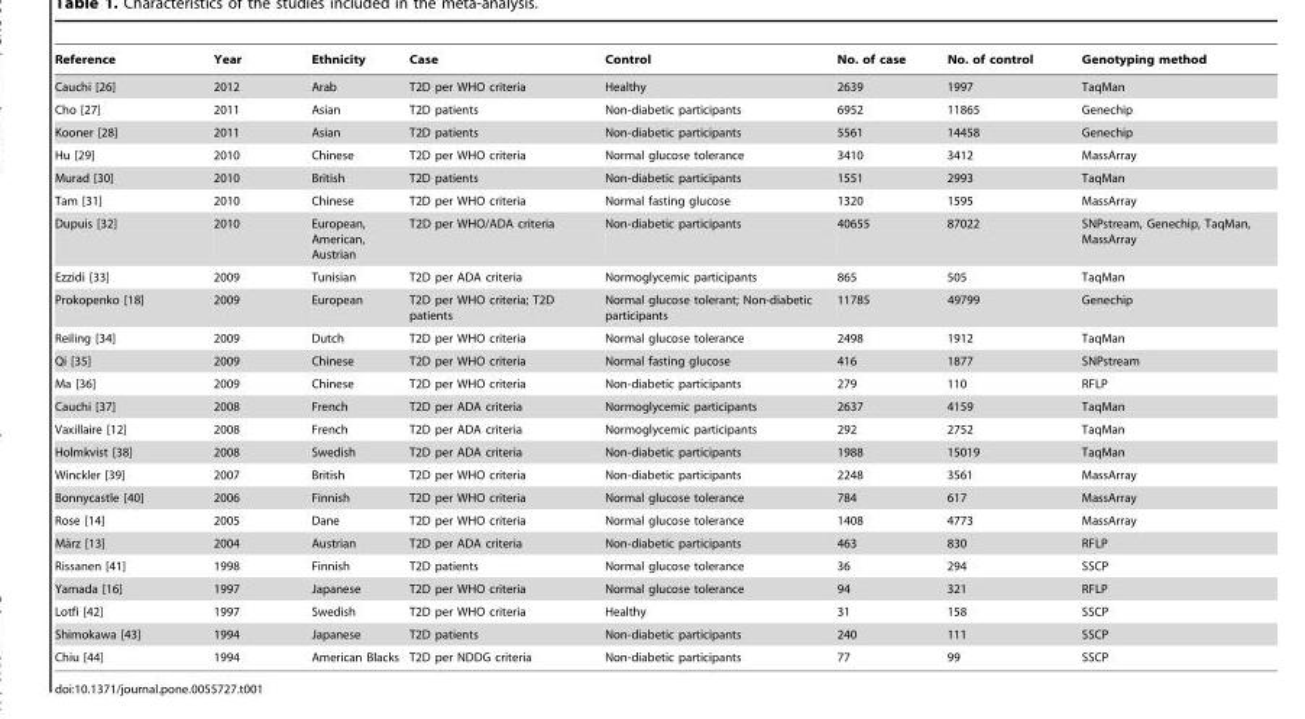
<table><thead><tr><td>Reference</td><td>Year</td><td>Ethnicity</td><td>Case</td><td>Control</td><td>No. of case</td><td>No. of control</td><td>Genotyping method</td></tr></thead><tbody><tr><td>Cauchi [26]</td><td>2012</td><td>Arab</td><td>T2D per WHO criteria</td><td>Healthy</td><td>2639</td><td>1997</td><td>TaqMan</td></tr><tr><td>Cho [27]</td><td>2011</td><td>Asian</td><td>T2D patients</td><td>Non-diabetic participants</td><td>6952</td><td>11865</td><td>Genechip</td></tr><tr><td>Kooner [28]</td><td>2011</td><td>Asian</td><td>T2D patients</td><td>Non-diabetic participants</td><td>5561</td><td>14458</td><td>Genechip</td></tr><tr><td>Hu [29]</td><td>2010</td><td>Chinese</td><td>T2D per WHO criteria</td><td>Normal glucose tolerance</td><td>3410</td><td>3412</td><td>MassArray</td></tr><tr><td>Murad [30]</td><td>2010</td><td>British</td><td>T2D patients</td><td>Non-diabetic participants</td><td>1551</td><td>2993</td><td>TaqMan</td></tr><tr><td>Tam [31]</td><td>2010</td><td>Chinese</td><td>T2D per WHO criteria</td><td>Normal fasting glucose</td><td>1320</td><td>1595</td><td>MassArray</td></tr><tr><td>Dupuis [32]</td><td>2010</td><td>European, American, Austrian</td><td>T2D per WHO/ADA criteria</td><td>Non-diabetic participants</td><td>40655</td><td>87022</td><td>SNPstream, Genechip, TaqMan, MassArray</td></tr><tr><td>Ezzidi [33]</td><td>2009</td><td>Tunisian</td><td>T2D per ADA criteria</td><td>Normoglycemic participants</td><td>865</td><td>505</td><td>TaqMan</td></tr><tr><td>Prokopenko [18]</td><td>2009</td><td>European</td><td>T2D per WHO criteria; T2D patients</td><td>Normal glucose tolerant; Non-diabetic participants</td><td>11785</td><td>49799</td><td>Genechip</td></tr><tr><td>Reiling [34]</td><td>2009</td><td>Dutch</td><td>T2D per WHO criteria</td><td>Normal glucose tolerance</td><td>2498</td><td>1912</td><td>TaqMan</td></tr><tr><td>Qi [35]</td><td>2009</td><td>Chinese</td><td>T2D per WHO criteria</td><td>Normal fasting glucose</td><td>416</td><td>1877</td><td>SNPstream</td></tr><tr><td>Ma [36]</td><td>2009</td><td>Chinese</td><td>T2D per WHO criteria</td><td>Non-diabetic participants</td><td>279</td><td>110</td><td>RFLP</td></tr><tr><td>Cauchi [37]</td><td>2008</td><td>French</td><td>T2D per ADA criteria</td><td>Normoglycemic participants</td><td>2637</td><td>4159</td><td>TaqMan</td></tr><tr><td>Vaxillaire [12]</td><td>2008</td><td>French</td><td>T2D per ADA criteria</td><td>Normoglycemic participants</td><td>292</td><td>2752</td><td>TaqMan</td></tr><tr><td>Holmkvist [38]</td><td>2008</td><td>Swedish</td><td>T2D per ADA criteria</td><td>Non-diabetic participants</td><td>1988</td><td>15019</td><td>TaqMan</td></tr><tr><td>Winckler [39]</td><td>2007</td><td>British</td><td>T2D per WHO criteria</td><td>Non-diabetic participants</td><td>2248</td><td>3561</td><td>MassArray</td></tr><tr><td>Bonnycastle [40]</td><td>2006</td><td>Finnish</td><td>T2D per WHO criteria</td><td>Normal glucose tolerance</td><td>784</td><td>617</td><td>MassArray</td></tr><tr><td>Rose [14]</td><td>2005</td><td>Dane</td><td>T2D per WHO criteria</td><td>Normal glucose tolerance</td><td>1408</td><td>4773</td><td>MassArray</td></tr><tr><td>Ma¨rz [13]</td><td>2004</td><td>Austrian</td><td>T2D per ADA criteria</td><td>Non-diabetic participants</td><td>463</td><td>830</td><td>RFLP</td></tr><tr><td>Rissanen [41]</td><td>1998</td><td>Finnish</td><td>T2D patients</td><td>Normal glucose tolerance</td><td>36</td><td>294</td><td>SSCP</td></tr><tr><td>Yamada [16]</td><td>1997</td><td>Japanese</td><td>T2D per WHO criteria</td><td>Normal glucose tolerance</td><td>94</td><td>321</td><td>RFLP</td></tr><tr><td>Lotfi [42]</td><td>1997</td><td>Swedish</td><td>T2D per WHO criteria</td><td>Healthy</td><td>31</td><td>158</td><td>SSCP</td></tr><tr><td>Shimokawa [43]</td><td>1994</td><td>Japanese</td><td>T2D patients</td><td>Non-diabetic participants</td><td>240</td><td>111</td><td>SSCP</td></tr><tr><td>Chiu [44]</td><td>1994</td><td>American Blacks</td><td>T2D per NDDG criteria</td><td>Non-diabetic participants</td><td>77</td><td>99</td><td>SSCP</td></tr></tbody></table>